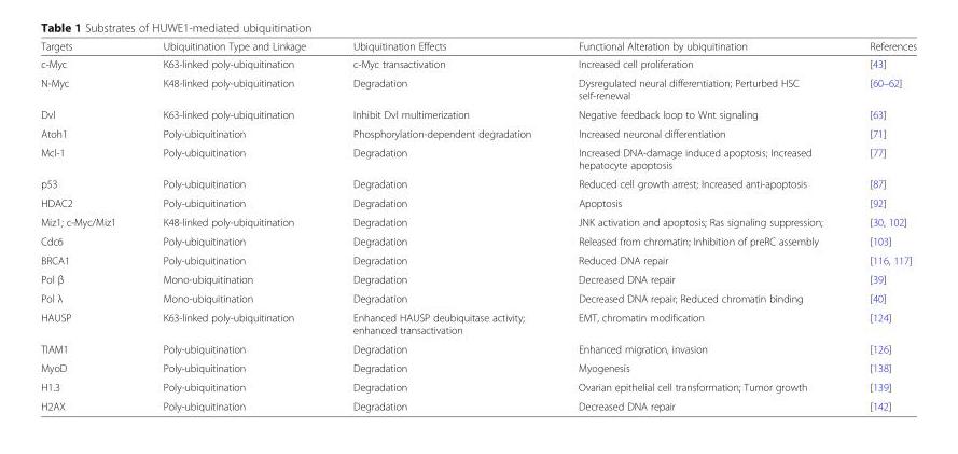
<table><thead><tr><td>Targets</td><td>Ubiquitination Type and Linkage</td><td>Ubiquitination Effects</td><td>Functional Alteration by ubiquitination</td><td>References</td></tr></thead><tbody><tr><td>c-Myc</td><td>K63-linked poly-ubiquitination</td><td>c-Myc transactivation</td><td>Increased cell proliferation</td><td>[43]</td></tr><tr><td>N-Myc</td><td>K48-linked poly-ubiquitination</td><td>Degradation</td><td>Dysregulated neural differentiation; Perturbed HSC self-renewal</td><td>[60–62]</td></tr><tr><td>Dvl</td><td>K63-linked poly-ubiquitination</td><td>Inhibit Dvl multimerization</td><td>Negative feedback loop to Wnt signaling</td><td>[63]</td></tr><tr><td>Atoh1</td><td>Poly-ubiquitination</td><td>Phosphorylation-dependent degradation</td><td>Increased neuronal differentiation</td><td>[71]</td></tr><tr><td>Mcl-1</td><td>Poly-ubiquitination</td><td>Degradation</td><td>Increased DNA-damage induced apoptosis; Increased hepatocyte apoptosis</td><td>[77]</td></tr><tr><td>p53</td><td>Poly-ubiquitination</td><td>Degradation</td><td>Reduced cell growth arrest; Increased anti-apoptosis</td><td>[87]</td></tr><tr><td>HDAC2</td><td>Poly-ubiquitination</td><td>Degradation</td><td>Apoptosis</td><td>[92]</td></tr><tr><td>Miz1; c-Myc/Miz1</td><td>K48-linked poly-ubiquitination</td><td>Degradation</td><td>JNK activation and apoptosis; Ras signaling suppression;</td><td>[30, 102]</td></tr><tr><td>Cdc6</td><td>Poly-ubiquitination</td><td>Degradation</td><td>Released from chromatin; Inhibition of preRC assembly</td><td>[103]</td></tr><tr><td>BRCA1</td><td>Poly-ubiquitination</td><td>Degradation</td><td>Reduced DNA repair</td><td>[116, 117]</td></tr><tr><td>Pol β</td><td>Mono-ubiquitination</td><td>Degradation</td><td>Decreased DNA repair</td><td>[39]</td></tr><tr><td>Pol λ</td><td>Mono-ubiquitination</td><td>Degradation</td><td>Decreased DNA repair; Reduced chromatin binding</td><td>[40]</td></tr><tr><td>HAUSP</td><td>K63-linked poly-ubiquitination</td><td>Enhanced HAUSP deubiquitase activity; enhanced transactivation</td><td>EMT, chromatin modification</td><td>[124]</td></tr><tr><td>TIAM1</td><td>Poly-ubiquitination</td><td>Degradation</td><td>Enhanced migration, invasion</td><td>[126]</td></tr><tr><td>MyoD</td><td>Poly-ubiquitination</td><td>Degradation</td><td>Myogenesis</td><td>[138]</td></tr><tr><td>H1.3</td><td>Poly-ubiquitination</td><td>Degradation</td><td>Ovarian epithelial cell transformation; Tumor growth</td><td>[139]</td></tr><tr><td>H2AX</td><td>Poly-ubiquitination</td><td>Degradation</td><td>Decreased DNA repair</td><td>[142]</td></tr></tbody></table>